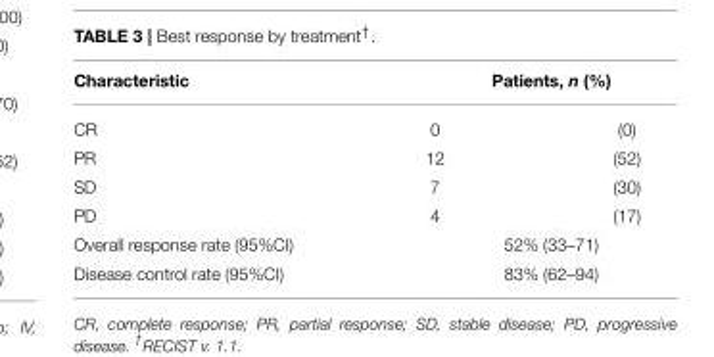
<table><thead><tr><td rowspan="2">Characteristic CR</td><td colspan="2">Patients, n (%)</td></tr><tr><td>0</td><td>(0)</td></tr></thead><tbody><tr><td>PR</td><td>12</td><td>(52)</td></tr><tr><td>SD</td><td>7</td><td>(30)</td></tr><tr><td>PD</td><td>4</td><td>(17)</td></tr><tr><td>Overall response rate (95%CI)</td><td colspan="2">52% (33–71)</td></tr><tr><td>Disease control rate (95%CI)</td><td colspan="2">83% (62–94)</td></tr></tbody></table>